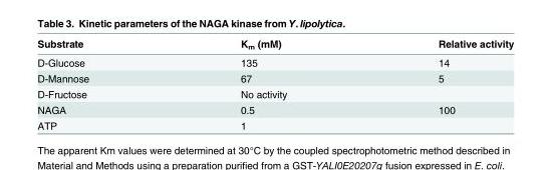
<table><thead><tr><td>Substrate</td><td>K<sub>m</sub> (mM)</td><td>Relative activity</td></tr></thead><tbody><tr><td>D-Glucose</td><td>135</td><td>14</td></tr><tr><td>D-Mannose</td><td>67</td><td>5</td></tr><tr><td>D-Fructose</td><td>No activity</td><td></td></tr><tr><td>NAGA</td><td>0.5</td><td>100</td></tr><tr><td>ATP</td><td>1</td><td></td></tr></tbody></table>